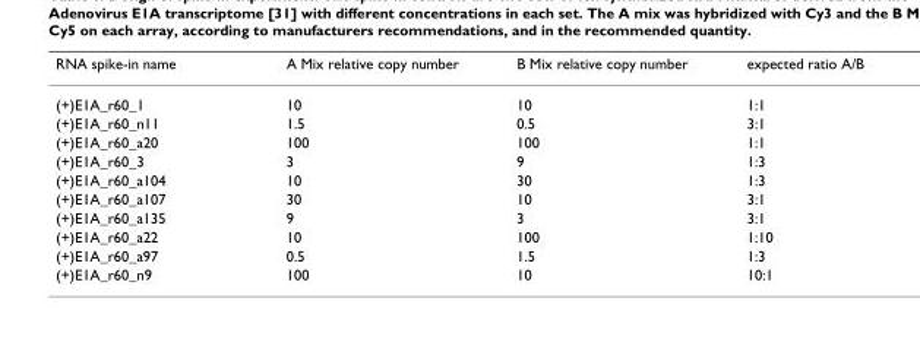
<table><thead><tr><td>RNA spike-in name</td><td>A Mix relative copy number</td><td>B Mix relative copy number</td><td>expected ratio A/B</td></tr></thead><tbody><tr><td>(+)E1A_r60_1</td><td>10</td><td>10</td><td>1:1</td></tr><tr><td>(+)E1A_r60_n11</td><td>1.5</td><td>0.5</td><td>3:1</td></tr><tr><td>(+)E1A_r60_a20</td><td>100</td><td>100</td><td>1:1</td></tr><tr><td>(+)E1A_r60_3</td><td>3</td><td>9</td><td>1:3</td></tr><tr><td>(+)E1A_r60_a104</td><td>10</td><td>30</td><td>1:3</td></tr><tr><td>(+)E1A_r60_a107</td><td>30</td><td>10</td><td>3:1</td></tr><tr><td>(+)E1A_r60_a135</td><td>9</td><td>3</td><td>3:1</td></tr><tr><td>(+)E1A_r60_a22</td><td>10</td><td>100</td><td>1:10</td></tr><tr><td>(+)E1A_r60_a97</td><td>0.5</td><td>1.5</td><td>1:3</td></tr><tr><td>(+)E1A_r60_n9</td><td>100</td><td>10</td><td>10:1</td></tr></tbody></table>